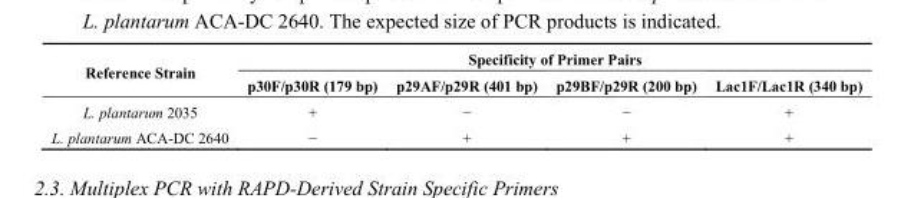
<table><thead><tr><td rowspan="2">Reference Strain</td><td colspan="4">Specificity of Primer Pairs</td></tr><tr><td>p30F/p30R (179 bp)</td><td>p29AF/p29R (401 bp)</td><td>p29BF/p29R (200 bp)</td><td>Lac1F/Lac1R (340 bp)</td></tr></thead><tbody><tr><td>L. plantarum 2035</td><td>+</td><td>−</td><td>−</td><td>+</td></tr><tr><td>L. plantarum ACA-DC 2640</td><td>−</td><td>+</td><td>+</td><td>+</td></tr></tbody></table>